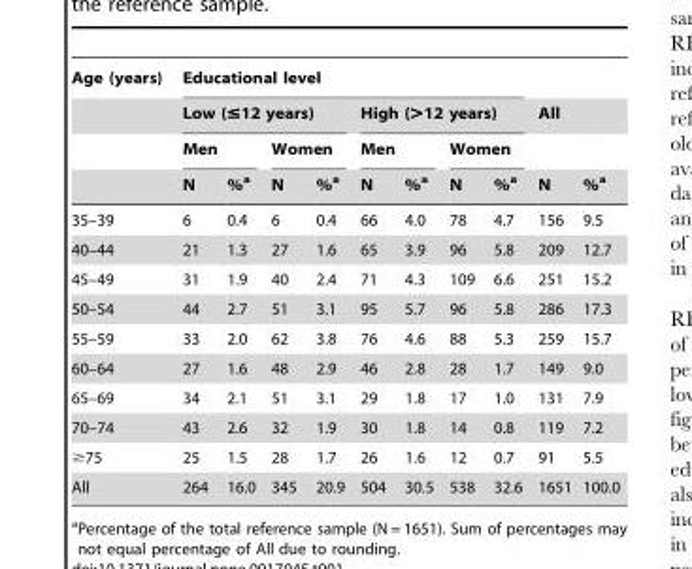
<table><thead><tr><td rowspan="4">Age (years)</td><td colspan="8">Educational level</td><td></td><td></td></tr><tr><td colspan="4">Low (≤12 years)</td><td colspan="4">High (&gt;12 years)</td><td colspan="2">All</td></tr><tr><td colspan="2">Men</td><td colspan="2">Women</td><td colspan="2">Men</td><td colspan="2">Women</td><td rowspan="2">N</td><td rowspan="2">%<sup>a</sup></td></tr><tr><td>N</td><td>%<sup>a</sup></td><td>N</td><td>%<sup>a</sup></td><td>N</td><td>%<sup>a</sup></td><td>N</td><td>%<sup>a</sup></td></tr></thead><tbody><tr><td>35–39</td><td>6</td><td>0.4</td><td>6</td><td>0.4</td><td>66</td><td>4.0</td><td>78</td><td>4.7</td><td>156</td><td>9.5</td></tr><tr><td>40–44</td><td>21</td><td>1.3</td><td>27</td><td>1.6</td><td>65</td><td>3.9</td><td>96</td><td>5.8</td><td>209</td><td>12.7</td></tr><tr><td>45–49</td><td>31</td><td>1.9</td><td>40</td><td>2.4</td><td>71</td><td>4.3</td><td>109</td><td>6.6</td><td>251</td><td>15.2</td></tr><tr><td>50–54</td><td>44</td><td>2.7</td><td>51</td><td>3.1</td><td>95</td><td>5.7</td><td>96</td><td>5.8</td><td>286</td><td>17.3</td></tr><tr><td>55–59</td><td>33</td><td>2.0</td><td>62</td><td>3.8</td><td>76</td><td>4.6</td><td>88</td><td>5.3</td><td>259</td><td>15.7</td></tr><tr><td>60–64</td><td>27</td><td>1.6</td><td>48</td><td>2.9</td><td>46</td><td>2.8</td><td>28</td><td>1.7</td><td>149</td><td>9.0</td></tr><tr><td>65–69</td><td>34</td><td>2.1</td><td>51</td><td>3.1</td><td>29</td><td>1.8</td><td>17</td><td>1.0</td><td>131</td><td>7.9</td></tr><tr><td>70–74</td><td>43</td><td>2.6</td><td>32</td><td>1.9</td><td>30</td><td>1.8</td><td>14</td><td>0.8</td><td>119</td><td>7.2</td></tr><tr><td>≥75</td><td>25</td><td>1.5</td><td>28</td><td>1.7</td><td>26</td><td>1.6</td><td>12</td><td>0.7</td><td>91</td><td>5.5</td></tr><tr><td>All</td><td>264</td><td>16.0</td><td>345</td><td>20.9</td><td>504</td><td>30.5</td><td>538</td><td>32.6</td><td>1651</td><td>100.0</td></tr></tbody></table>